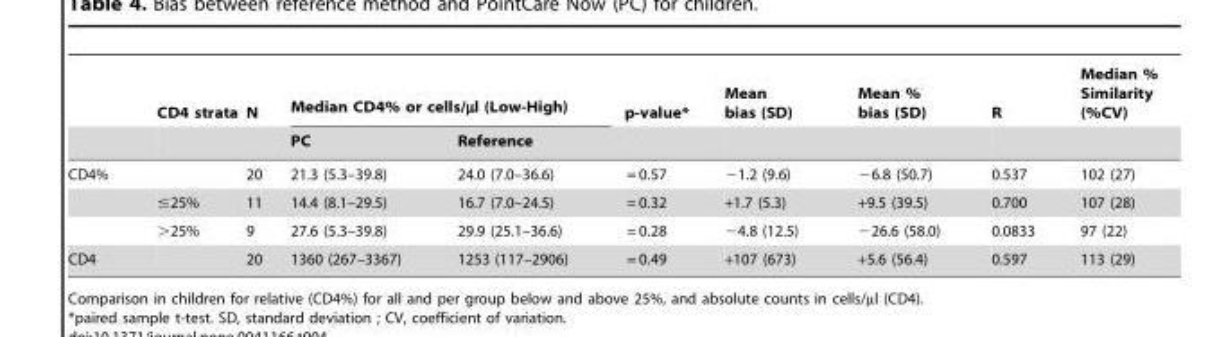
<table><thead><tr><td rowspan="2"></td><td rowspan="2">CD4 strata</td><td rowspan="2">N</td><td colspan="2">Median CD4% or cells/µl (Low-High)</td><td rowspan="2">p-value*</td><td rowspan="2">Mean bias (SD)</td><td rowspan="2">Mean % bias (SD)</td><td rowspan="2">R</td><td rowspan="2">Median % Similarity (%CV)</td></tr><tr><td>PC</td><td>Reference</td></tr></thead><tbody><tr><td rowspan="3">CD4%</td><td></td><td>20</td><td>21.3 (5.3–39.8)</td><td>24.0 (7.0–36.6)</td><td>= 0.57</td><td>−1.2 (9.6)</td><td>−6.8 (50.7)</td><td>0.537</td><td>102 (27)</td></tr><tr><td>≤25%</td><td>11</td><td>14.4 (8.1–29.5)</td><td>16.7 (7.0–24.5)</td><td>= 0.32</td><td>+1.7 (5.3)</td><td>+9.5 (39.5)</td><td>0.700</td><td>107 (28)</td></tr><tr><td>&gt;25%</td><td>9</td><td>27.6 (5.3–39.8)</td><td>29.9 (25.1–36.6)</td><td>= 0.28</td><td>−4.8 (12.5)</td><td>−26.6 (58.0)</td><td>0.0833</td><td>97 (22)</td></tr><tr><td>CD4</td><td></td><td>20</td><td>1360 (267–3367)</td><td>1253 (117–2906)</td><td>= 0.49</td><td>+107 (673)</td><td>+5.6 (56.4)</td><td>0.597</td><td>113 (29)</td></tr></tbody></table>